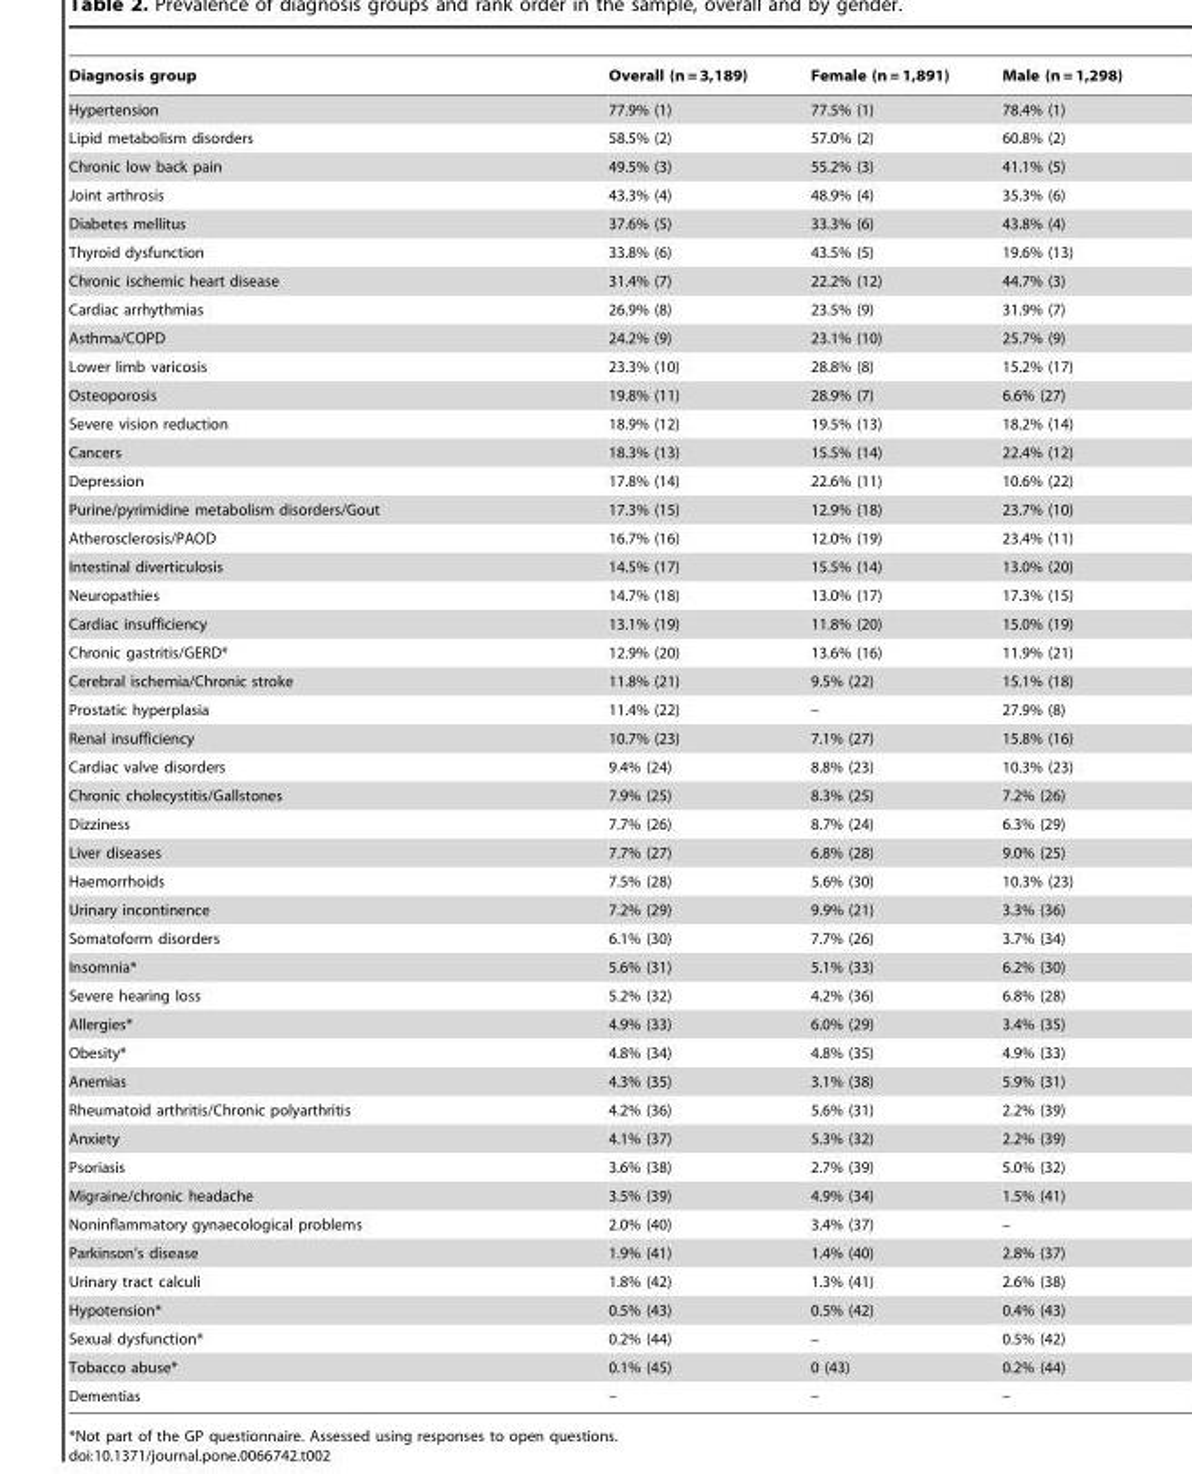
<table><thead><tr><td>Diagnosis group</td><td>Overall (n = 3,189)</td><td>Female (n = 1,891)</td><td>Male (n = 1,298)</td></tr></thead><tbody><tr><td>Hypertension</td><td>77.9% (1)</td><td>77.5% (1)</td><td>78.4% (1)</td></tr><tr><td>Lipid metabolism disorders</td><td>58.5% (2)</td><td>57.0% (2)</td><td>60.8% (2)</td></tr><tr><td>Chronic low back pain</td><td>49.5% (3)</td><td>55.2% (3)</td><td>41.1% (5)</td></tr><tr><td>Joint arthrosis</td><td>43.3% (4)</td><td>48.9% (4)</td><td>35.3% (6)</td></tr><tr><td>Diabetes mellitus</td><td>37.6% (5)</td><td>33.3% (6)</td><td>43.8% (4)</td></tr><tr><td>Thyroid dysfunction</td><td>33.8% (6)</td><td>43.5% (5)</td><td>19.6% (13)</td></tr><tr><td>Chronic ischemic heart disease</td><td>31.4% (7)</td><td>22.2% (12)</td><td>44.7% (3)</td></tr><tr><td>Cardiac arrhythmias</td><td>26.9% (8)</td><td>23.5% (9)</td><td>31.9% (7)</td></tr><tr><td>Asthma/COPD</td><td>24.2% (9)</td><td>23.1% (10)</td><td>25.7% (9)</td></tr><tr><td>Lower limb varicosis</td><td>23.3% (10)</td><td>28.8% (8)</td><td>15.2% (17)</td></tr><tr><td>Osteoporosis</td><td>19.8% (11)</td><td>28.9% (7)</td><td>6.6% (27)</td></tr><tr><td>Severe vision reduction</td><td>18.9% (12)</td><td>19.5% (13)</td><td>18.2% (14)</td></tr><tr><td>Cancers</td><td>18.3% (13)</td><td>15.5% (14)</td><td>22.4% (12)</td></tr><tr><td>Depression</td><td>17.8% (14)</td><td>22.6% (11)</td><td>10.6% (22)</td></tr><tr><td>Purine/pyrimidine metabolism disorders/Gout</td><td>17.3% (15)</td><td>12.9% (18)</td><td>23.7% (10)</td></tr><tr><td>Atherosclerosis/PAOD</td><td>16.7% (16)</td><td>12.0% (19)</td><td>23.4% (11)</td></tr><tr><td>Intestinal diverticulosis</td><td>14.5% (17)</td><td>15.5% (14)</td><td>13.0% (20)</td></tr><tr><td>Neuropathies</td><td>14.7% (18)</td><td>13.0% (17)</td><td>17.3% (15)</td></tr><tr><td>Cardiac insufficiency</td><td>13.1% (19)</td><td>11.8% (20)</td><td>15.0% (19)</td></tr><tr><td>Chronic gastritis/GERD*</td><td>12.9% (20)</td><td>13.6% (16)</td><td>11.9% (21)</td></tr><tr><td>Cerebral ischemia/Chronic stroke</td><td>11.8% (21)</td><td>9.5% (22)</td><td>15.1% (18)</td></tr><tr><td>Prostatic hyperplasia</td><td>11.4% (22)</td><td>–</td><td>27.9% (8)</td></tr><tr><td>Renal insufficiency</td><td>10.7% (23)</td><td>7.1% (27)</td><td>15.8% (16)</td></tr><tr><td>Cardiac valve disorders</td><td>9.4% (24)</td><td>8.8% (23)</td><td>10.3% (23)</td></tr><tr><td>Chronic cholecystitis/Gallstones</td><td>7.9% (25)</td><td>8.3% (25)</td><td>7.2% (26)</td></tr><tr><td>Dizziness</td><td>7.7% (26)</td><td>8.7% (24)</td><td>6.3% (29)</td></tr><tr><td>Liver diseases</td><td>7.7% (27)</td><td>6.8% (28)</td><td>9.0% (25)</td></tr><tr><td>Haemorrhoids</td><td>7.5% (28)</td><td>5.6% (30)</td><td>10.3% (23)</td></tr><tr><td>Urinary incontinence</td><td>7.2% (29)</td><td>9.9% (21)</td><td>3.3% (36)</td></tr><tr><td>Somatoform disorders</td><td>6.1% (30)</td><td>7.7% (26)</td><td>3.7% (34)</td></tr><tr><td>Insomnia*</td><td>5.6% (31)</td><td>5.1% (33)</td><td>6.2% (30)</td></tr><tr><td>Severe hearing loss</td><td>5.2% (32)</td><td>4.2% (36)</td><td>6.8% (28)</td></tr><tr><td>Allergies*</td><td>4.9% (33)</td><td>6.0% (29)</td><td>3.4% (35)</td></tr><tr><td>Obesity*</td><td>4.8% (34)</td><td>4.8% (35)</td><td>4.9% (33)</td></tr><tr><td>Anemias</td><td>4.3% (35)</td><td>3.1% (38)</td><td>5.9% (31)</td></tr><tr><td>Rheumatoid arthritis/Chronic polyarthritis</td><td>4.2% (36)</td><td>5.6% (31)</td><td>2.2% (39)</td></tr><tr><td>Anxiety</td><td>4.1% (37)</td><td>5.3% (32)</td><td>2.2% (39)</td></tr><tr><td>Psoriasis</td><td>3.6% (38)</td><td>2.7% (39)</td><td>5.0% (32)</td></tr><tr><td>Migraine/chronic headache</td><td>3.5% (39)</td><td>4.9% (34)</td><td>1.5% (41)</td></tr><tr><td>Noninflammatory gynaecological problems</td><td>2.0% (40)</td><td>3.4% (37)</td><td>–</td></tr><tr><td>Parkinson’s disease</td><td>1.9% (41)</td><td>1.4% (40)</td><td>2.8% (37)</td></tr><tr><td>Urinary tract calculi</td><td>1.8% (42)</td><td>1.3% (41)</td><td>2.6% (38)</td></tr><tr><td>Hypotension*</td><td>0.5% (43)</td><td>0.5% (42)</td><td>0.4% (43)</td></tr><tr><td>Sexual dysfunction*</td><td>0.2% (44)</td><td>–</td><td>0.5% (42)</td></tr><tr><td>Tobacco abuse*</td><td>0.1% (45)</td><td>0 (43)</td><td>0.2% (44)</td></tr><tr><td>Dementias</td><td>–</td><td>–</td><td>–</td></tr></tbody></table>